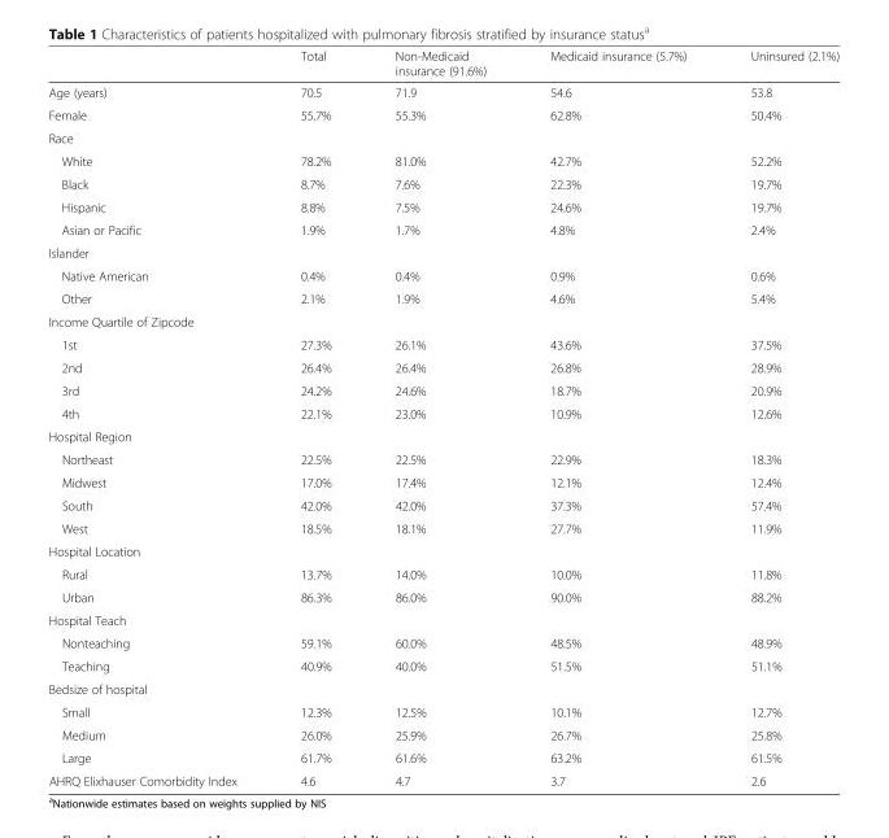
<table><thead><tr><td></td><td>Total</td><td>Non-Medicaid insurance (91.6%)</td><td>Medicaid insurance (5.7%)</td><td>Uninsured (2.1%)</td></tr></thead><tbody><tr><td>Age (years)</td><td>70.5</td><td>71.9</td><td>54.6</td><td>53.8</td></tr><tr><td>Female</td><td>55.7%</td><td>55.3%</td><td>62.8%</td><td>50.4%</td></tr><tr><td colspan="5">Race</td></tr><tr><td>White</td><td>78.2%</td><td>81.0%</td><td>42.7%</td><td>52.2%</td></tr><tr><td>Black</td><td>8.7%</td><td>7.6%</td><td>22.3%</td><td>19.7%</td></tr><tr><td>Hispanic</td><td>8.8%</td><td>7.5%</td><td>24.6%</td><td>19.7%</td></tr><tr><td>Asian or Pacific</td><td>1.9%</td><td>1.7%</td><td>4.8%</td><td>2.4%</td></tr><tr><td colspan="5">Islander</td></tr><tr><td>Native American</td><td>0.4%</td><td>0.4%</td><td>0.9%</td><td>0.6%</td></tr><tr><td>Other</td><td>2.1%</td><td>1.9%</td><td>4.6%</td><td>5.4%</td></tr><tr><td colspan="5">Income Quartile of Zipcode</td></tr><tr><td>1st</td><td>27.3%</td><td>26.1%</td><td>43.6%</td><td>37.5%</td></tr><tr><td>2nd</td><td>26.4%</td><td>26.4%</td><td>26.8%</td><td>28.9%</td></tr><tr><td>3rd</td><td>24.2%</td><td>24.6%</td><td>18.7%</td><td>20.9%</td></tr><tr><td>4th</td><td>22.1%</td><td>23.0%</td><td>10.9%</td><td>12.6%</td></tr><tr><td colspan="5">Hospital Region</td></tr><tr><td>Northeast</td><td>22.5%</td><td>22.5%</td><td>22.9%</td><td>18.3%</td></tr><tr><td>Midwest</td><td>17.0%</td><td>17.4%</td><td>12.1%</td><td>12.4%</td></tr><tr><td>South</td><td>42.0%</td><td>42.0%</td><td>37.3%</td><td>57.4%</td></tr><tr><td>West</td><td>18.5%</td><td>18.1%</td><td>27.7%</td><td>11.9%</td></tr><tr><td colspan="5">Hospital Location</td></tr><tr><td>Rural</td><td>13.7%</td><td>14.0%</td><td>10.0%</td><td>11.8%</td></tr><tr><td>Urban</td><td>86.3%</td><td>86.0%</td><td>90.0%</td><td>88.2%</td></tr><tr><td colspan="5">Hospital Teach</td></tr><tr><td>Nonteaching</td><td>59.1%</td><td>60.0%</td><td>48.5%</td><td>48.9%</td></tr><tr><td>Teaching</td><td>40.9%</td><td>40.0%</td><td>51.5%</td><td>51.1%</td></tr><tr><td colspan="5">Bedsize of hospital</td></tr><tr><td>Small</td><td>12.3%</td><td>12.5%</td><td>10.1%</td><td>12.7%</td></tr><tr><td>Medium</td><td>26.0%</td><td>25.9%</td><td>26.7%</td><td>25.8%</td></tr><tr><td>Large</td><td>61.7%</td><td>61.6%</td><td>63.2%</td><td>61.5%</td></tr><tr><td>AHRQ Elixhauser Comorbidity Index</td><td>4.6</td><td>4.7</td><td>3.7</td><td>2.6</td></tr></tbody></table>